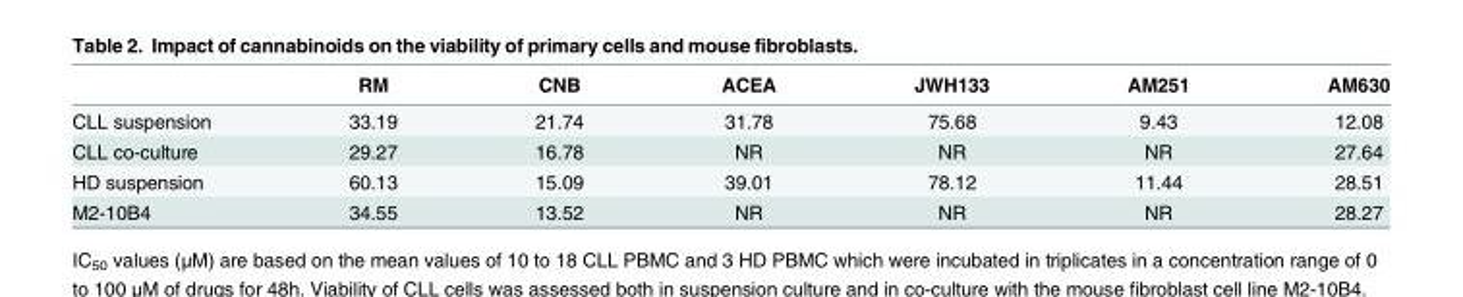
<table><thead><tr><td></td><td>RM</td><td>CNB</td><td>ACEA</td><td>JWH133</td><td>AM251</td><td>AM630</td></tr></thead><tbody><tr><td>CLL suspension</td><td>33.19</td><td>21.74</td><td>31.78</td><td>75.68</td><td>9.43</td><td>12.08</td></tr><tr><td>CLL co-culture</td><td>29.27</td><td>16.78</td><td>NR</td><td>NR</td><td>NR</td><td>27.64</td></tr><tr><td>HD suspension</td><td>60.13</td><td>15.09</td><td>39.01</td><td>78.12</td><td>11.44</td><td>28.51</td></tr><tr><td>M2-10B4</td><td>34.55</td><td>13.52</td><td>NR</td><td>NR</td><td>NR</td><td>28.27</td></tr></tbody></table>